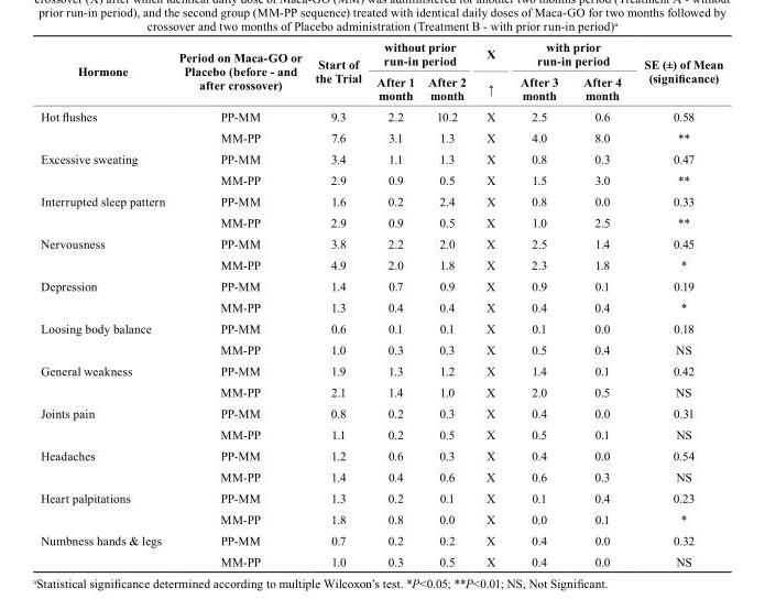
<table><thead><tr><td rowspan="2">Hormone</td><td rowspan="2">Period on Maca-GO or Placebo (before - and after crossover)</td><td rowspan="2">start of the trial</td><td colspan="2">without prior run-in period</td><td rowspan="2">X ↑</td><td colspan="2">with prior run-in period</td><td rowspan="2">sE (±) of Mean (significance)</td></tr><tr><td>After 1 month</td><td>After 2 month</td><td>After 3 month</td><td>After 4 month</td></tr></thead><tbody><tr><td rowspan="2">Hot flushes</td><td>PP-MM</td><td>9.3</td><td>2.2</td><td>10.2</td><td>X</td><td>2.5</td><td>0.6</td><td>0.58</td></tr><tr><td>MM-PP</td><td>7.6</td><td>3.1</td><td>1.3</td><td>X</td><td>4.0</td><td>8.0</td><td>**</td></tr><tr><td rowspan="2">Excessive sweating</td><td>PP-MM</td><td>3.4</td><td>1.1</td><td>1.3</td><td>X</td><td>0.8</td><td>0.3</td><td>0.47</td></tr><tr><td>MM-PP</td><td>2.9</td><td>0.9</td><td>0.5</td><td>X</td><td>1.5</td><td>3.0</td><td>**</td></tr><tr><td rowspan="2">Interrupted sleep pattern</td><td>PP-MM</td><td>1.6</td><td>0.2</td><td>2.4</td><td>X</td><td>0.8</td><td>0.0</td><td>0.33</td></tr><tr><td>MM-PP</td><td>2.9</td><td>0.9</td><td>0.5</td><td>X</td><td>1.0</td><td>2.5</td><td>**</td></tr><tr><td rowspan="2">Nervousness</td><td>PP-MM</td><td>3.8</td><td>2.2</td><td>2.0</td><td>X</td><td>2.5</td><td>1.4</td><td>0.45</td></tr><tr><td>MM-PP</td><td>4.9</td><td>2.0</td><td>1.8</td><td>X</td><td>2.3</td><td>1.8</td><td>*</td></tr><tr><td rowspan="2">Depression</td><td>PP-MM</td><td>1.4</td><td>0.7</td><td>0.9</td><td>X</td><td>0.9</td><td>0.1</td><td>0.19</td></tr><tr><td>MM-PP</td><td>1.3</td><td>0.4</td><td>0.4</td><td>X</td><td>0.4</td><td>0.4</td><td>*</td></tr><tr><td rowspan="2">Loosing body balance</td><td>PP-MM</td><td>0.6</td><td>0.1</td><td>0.1</td><td>X</td><td>0.1</td><td>0.0</td><td>0.18</td></tr><tr><td>MM-PP</td><td>1.0</td><td>0.3</td><td>0.3</td><td>X</td><td>0.5</td><td>0.4</td><td>NS</td></tr><tr><td rowspan="2">General weakness</td><td>PP-MM</td><td>1.9</td><td>1.3</td><td>1.2</td><td>X</td><td>1.4</td><td>0.1</td><td>0.42</td></tr><tr><td>MM-PP</td><td>2.1</td><td>1.4</td><td>1.0</td><td>X</td><td>2.0</td><td>0.5</td><td>NS</td></tr><tr><td rowspan="2">Joints pain</td><td>PP-MM</td><td>0.8</td><td>0.2</td><td>0.3</td><td>X</td><td>0.4</td><td>0.0</td><td>0.31</td></tr><tr><td>MM-PP</td><td>1.1</td><td>0.2</td><td>0.5</td><td>X</td><td>0.5</td><td>0.1</td><td>NS</td></tr><tr><td rowspan="2">Headaches</td><td>PP-MM</td><td>1.2</td><td>0.6</td><td>0.3</td><td>X</td><td>0.4</td><td>0.0</td><td>0.54</td></tr><tr><td>MM-PP</td><td>1.4</td><td>0.4</td><td>0.6</td><td>X</td><td>0.6</td><td>0.3</td><td>NS</td></tr><tr><td rowspan="2">Heart palpitations</td><td>PP-MM</td><td>1.3</td><td>0.2</td><td>0.1</td><td>X</td><td>0.1</td><td>0.4</td><td>0.23</td></tr><tr><td>MM-PP</td><td>1.8</td><td>0.8</td><td>0.0</td><td>X</td><td>0.0</td><td>0.1</td><td>*</td></tr><tr><td rowspan="2">Numbness hands &amp; legs</td><td>PP-MM</td><td>0.7</td><td>0.2</td><td>0.2</td><td>X</td><td>0.4</td><td>0.0</td><td>0.32</td></tr><tr><td>MM-PP</td><td>1.0</td><td>0.3</td><td>0.5</td><td>X</td><td>0.4</td><td>0.0</td><td>NS</td></tr></tbody></table>